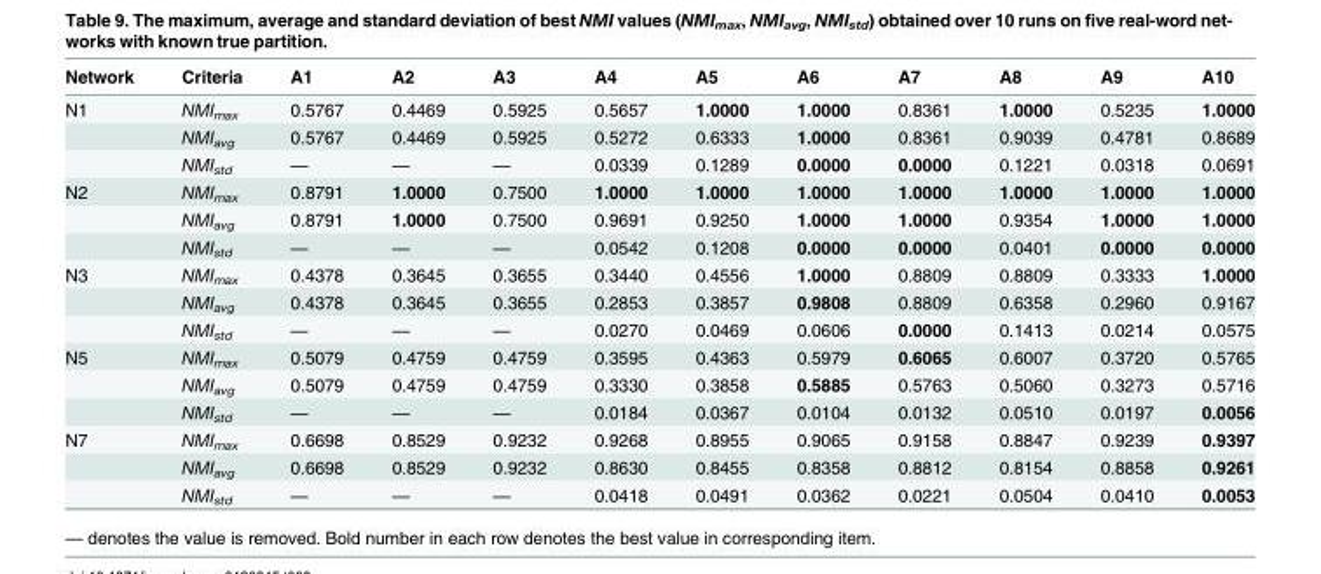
<table><thead><tr><td>Network</td><td>Criteria</td><td>A1</td><td>A2</td><td>A3</td><td>A4</td><td>A5</td><td>A6</td><td>A7</td><td>A8</td><td>A9</td><td>A10</td></tr></thead><tbody><tr><td rowspan="3">N1</td><td>NMI<sub>max</sub></td><td>0.5767</td><td>0.4469</td><td>0.5925</td><td>0.5657</td><td>1.0000</td><td>1.0000</td><td>0.8361</td><td>1.0000</td><td>0.5235</td><td>1.0000</td></tr><tr><td>NMI<sub>avg</sub></td><td>0.5767</td><td>0.4469</td><td>0.5925</td><td>0.5272</td><td>0.6333</td><td>1.0000</td><td>0.8361</td><td>0.9039</td><td>0.4781</td><td>0.8689</td></tr><tr><td>NMI<sub>std</sub></td><td>—</td><td>—</td><td>—</td><td>0.0339</td><td>0.1289</td><td>0.0000</td><td>0.0000</td><td>0.1221</td><td>0.0318</td><td>0.0691</td></tr><tr><td rowspan="3">N2</td><td>NMI<sub>max</sub></td><td>0.8791</td><td>1.0000</td><td>0.7500</td><td>1.0000</td><td>1.0000</td><td>1.0000</td><td>1.0000</td><td>1.0000</td><td>1.0000</td><td>1.0000</td></tr><tr><td>NMI<sub>avg</sub></td><td>0.8791</td><td>1.0000</td><td>0.7500</td><td>0.9691</td><td>0.9250</td><td>1.0000</td><td>1.0000</td><td>0.9354</td><td>1.0000</td><td>1.0000</td></tr><tr><td>NMI<sub>std</sub></td><td>—</td><td>—</td><td>—</td><td>0.0542</td><td>0.1208</td><td>0.0000</td><td>0.0000</td><td>0.0401</td><td>0.0000</td><td>0.0000</td></tr><tr><td rowspan="3">N3</td><td>NMI<sub>max</sub></td><td>0.4378</td><td>0.3645</td><td>0.3655</td><td>0.3440</td><td>0.4556</td><td>1.0000</td><td>0.8809</td><td>0.8809</td><td>0.3333</td><td>1.0000</td></tr><tr><td>NMI<sub>avg</sub></td><td>0.4378</td><td>0.3645</td><td>0.3655</td><td>0.2853</td><td>0.3857</td><td>0.9808</td><td>0.8809</td><td>0.6358</td><td>0.2960</td><td>0.9167</td></tr><tr><td>NMI<sub>std</sub></td><td>—</td><td>—</td><td>—</td><td>0.0270</td><td>0.0469</td><td>0.0606</td><td>0.0000</td><td>0.1413</td><td>0.0214</td><td>0.0575</td></tr><tr><td rowspan="3">N5</td><td>NMI<sub>max</sub></td><td>0.5079</td><td>0.4759</td><td>0.4759</td><td>0.3595</td><td>0.4363</td><td>0.5979</td><td>0.6065</td><td>0.6007</td><td>0.3720</td><td>0.5765</td></tr><tr><td>NMI<sub>avg</sub></td><td>0.5079</td><td>0.4759</td><td>0.4759</td><td>0.3330</td><td>0.3858</td><td>0.5885</td><td>0.5763</td><td>0.5060</td><td>0.3273</td><td>0.5716</td></tr><tr><td>NMI<sub>std</sub></td><td>—</td><td>—</td><td>—</td><td>0.0184</td><td>0.0367</td><td>0.0104</td><td>0.0132</td><td>0.0510</td><td>0.0197</td><td>0.0056</td></tr><tr><td rowspan="3">N7</td><td>NMI<sub>max</sub></td><td>0.6698</td><td>0.8529</td><td>0.9232</td><td>0.9268</td><td>0.8955</td><td>0.9065</td><td>0.9158</td><td>0.8847</td><td>0.9239</td><td>0.9397</td></tr><tr><td>NMI<sub>avg</sub></td><td>0.6698</td><td>0.8529</td><td>0.9232</td><td>0.8630</td><td>0.8455</td><td>0.8358</td><td>0.8812</td><td>0.8154</td><td>0.8858</td><td>0.9261</td></tr><tr><td>NMI<sub>std</sub></td><td>—</td><td>—</td><td>—</td><td>0.0418</td><td>0.0491</td><td>0.0362</td><td>0.0221</td><td>0.0504</td><td>0.0410</td><td>0.0053</td></tr></tbody></table>